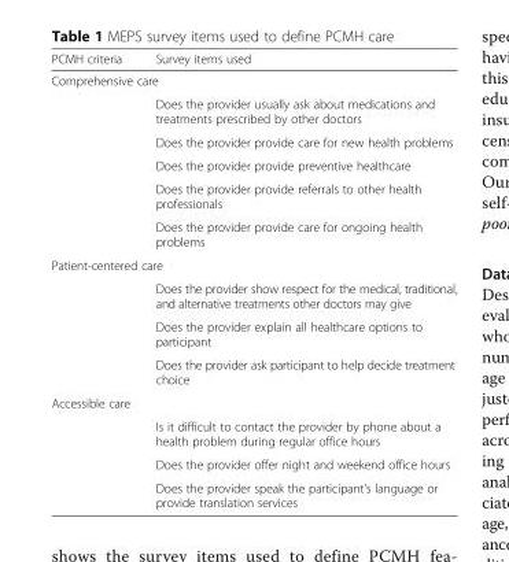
<table><thead><tr><td>PCMH criteria</td><td>Survey items used</td></tr></thead><tbody><tr><td colspan="2">Comprehensive care</td></tr><tr><td></td><td>Does the provider usually ask about medications and treatments prescribed by other doctors</td></tr><tr><td></td><td>Does the provider provide care for new health problems</td></tr><tr><td></td><td>Does the provider provide preventive healthcare</td></tr><tr><td></td><td>Does the provider provide referrals to other health professionals</td></tr><tr><td></td><td>Does the provider provide care for ongoing health problems</td></tr><tr><td colspan="2">Patient-centered care</td></tr><tr><td></td><td>Does the provider show respect for the medical, traditional, and alternative treatments other doctors may give</td></tr><tr><td></td><td>Does the provider explain all healthcare options to participant</td></tr><tr><td></td><td>Does the provider ask participant to help decide treatment choice</td></tr><tr><td colspan="2">Accessible care</td></tr><tr><td></td><td>Is it difficult to contact the provider by phone about a health problem during regular office hours</td></tr><tr><td></td><td>Does the provider offer night and weekend office hours</td></tr><tr><td></td><td>Does the provider speak the participant’s language or provide translation services</td></tr></tbody></table>